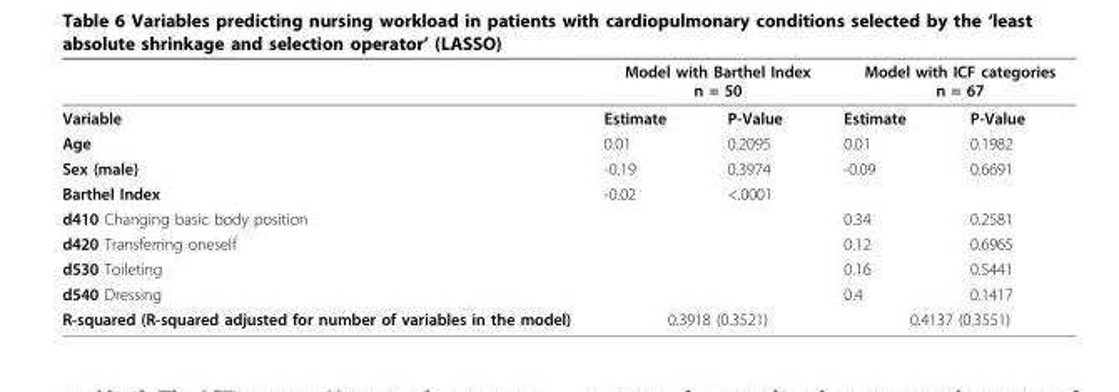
<table><thead><tr><td rowspan="2">Variable</td><td colspan="2">Model with Barthel Index n = 50</td><td colspan="2">Model with ICF categories n = 67</td></tr><tr><td>Estimate</td><td>P-Value</td><td>Estimate</td><td>P-Value</td></tr></thead><tbody><tr><td>Age</td><td>0.01</td><td>0.2095</td><td>0.01</td><td>0.1982</td></tr><tr><td>Sex (male)</td><td>-0.19</td><td>0.3974</td><td>-0.09</td><td>0.6691</td></tr><tr><td>Barthel Index</td><td>-0.02</td><td>&lt;.0001</td><td></td><td></td></tr><tr><td>d410 Changing basic body position</td><td></td><td></td><td>0.34</td><td>0.2581</td></tr><tr><td>d420 Transferring oneself</td><td></td><td></td><td>0.12</td><td>0.6965</td></tr><tr><td>d530 Toileting</td><td></td><td></td><td>0.16</td><td>0.5441</td></tr><tr><td>d540 Dressing</td><td></td><td></td><td>0.4</td><td>0.1417</td></tr><tr><td>R-squared (R-squared adjusted for number of variables in the model)</td><td colspan="2">0.3918 (0.3521)</td><td colspan="2">0.4137 (0.3551)</td></tr></tbody></table>